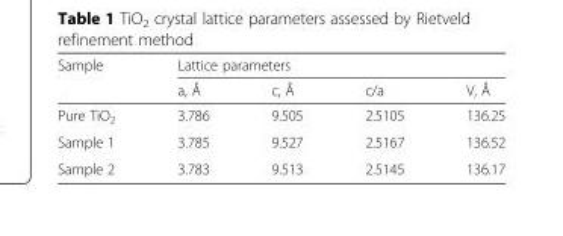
<table><thead><tr><td rowspan="2">Sample</td><td colspan="4">Lattice parameters</td></tr><tr><td>a, Å</td><td>c, Å</td><td>c/a</td><td>V, Å</td></tr></thead><tbody><tr><td>Pure TiO<sub>2</sub></td><td>3.786</td><td>9.505</td><td>2.5105</td><td>136.25</td></tr><tr><td>Sample 1</td><td>3.785</td><td>9.527</td><td>2.5167</td><td>136.52</td></tr><tr><td>Sample 2</td><td>3.783</td><td>9.513</td><td>2.5145</td><td>136.17</td></tr></tbody></table>